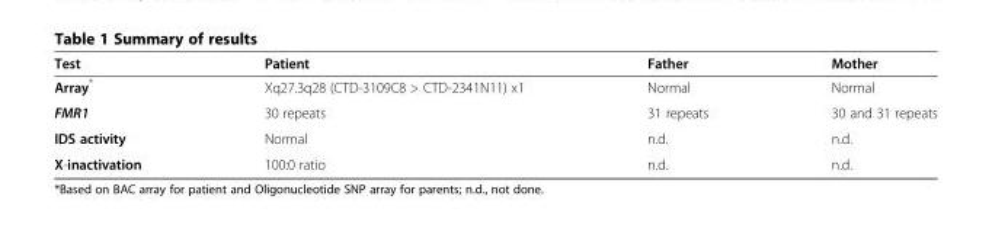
<table><thead><tr><td>Test</td><td>Patient</td><td>Father</td><td>Mother</td></tr></thead><tbody><tr><td>Array*</td><td>Xq27.3q28 (CTD-3109C8 &gt; CTD-2341N11) x1</td><td>Normal</td><td>Normal</td></tr><tr><td>FMR1</td><td>30 repeats</td><td>31 repeats</td><td>30 and 31 repeats</td></tr><tr><td>IDS activity</td><td>Normal</td><td>n.d.</td><td>n.d.</td></tr><tr><td>X-inactivation</td><td>100:0 ratio</td><td>n.d.</td><td>n.d.</td></tr></tbody></table>